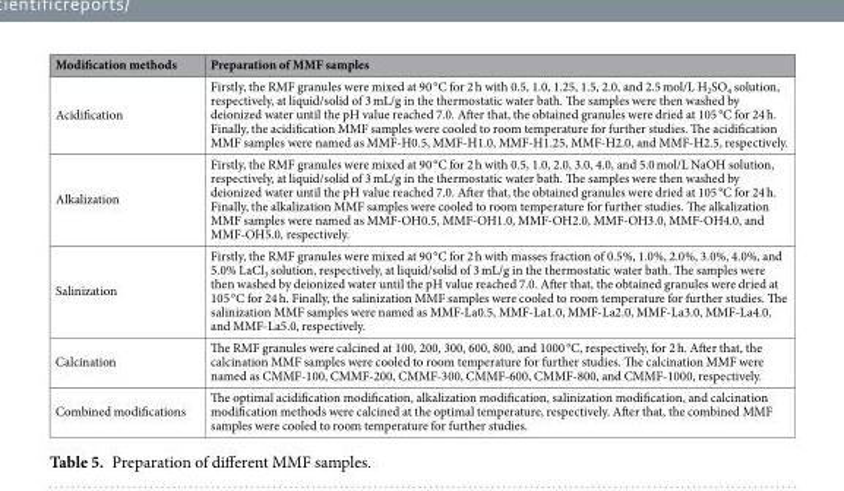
<table><thead><tr><td>Modification methods</td><td>Preparation of MMF samples</td></tr></thead><tbody><tr><td>Acidification</td><td>Firstly, the RMF granules were mixed at 90 °C for 2 h with 0.5, 1.0, 1.25, 1.5, 2.0, and 2.5 mol/L H<sub>2</sub>SO<sub>4</sub> solution, respectively, at liquid/solid of 3 mL/g in the thermostatic water bath. The samples were then washed by deionized water until the pH value reached 7.0. After that, the obtained granules were dried at 105 °C for 24 h. Finally, the acidification MMF samples were cooled to room temperature for further studies. The acidification MMF samples were named as MMF-H0.5, MMF-H1.0, MMF-H1.25, MMF-H2.0, and MMF-H2.5, respectively.</td></tr><tr><td>Alkalization</td><td>Firstly, the RMF granules were mixed at 90 °C for 2 h with 0.5, 1.0, 2.0, 3.0, 4.0, and 5.0 mol/L NaOH solution, respectively, at liquid/solid of 3 mL/g in the thermostatic water bath. The samples were then washed by deionized water until the pH value reached 7.0. After that, the obtained granules were dried at 105 °C for 24 h. Finally, the alkalization MMF samples were cooled to room temperature for further studies. The alkalization MMF samples were named as MMF-OH0.5, MMF-OH1.0, MMF-OH2.0, MMF-OH3.0, MMF-OH4.0, and MMF-OH5.0, respectively.</td></tr><tr><td>Salinization</td><td>Firstly, the RMF granules were mixed at 90 °C for 2 h with masses fraction of 0.5%, 1.0%, 2.0%, 3.0%, 4.0%, and 5.0% LaCl<sub>3</sub> solution, respectively, at liquid/solid of 3 mL/g in the thermostatic water bath. The samples were then washed by deionized water until the pH value reached 7.0. After that, the obtained granules were dried at 105 °C for 24 h. Finally, the salinization MMF samples were cooled to room temperature for further studies. The salinization MMF samples were named as MMF-La0.5, MMF-La1.0, MMF-La2.0, MMF-La3.0, MMF-La4.0, and MMF-La5.0, respectively.</td></tr><tr><td>Calcination</td><td>The RMF granules were calcined at 100, 200, 300, 600, 800, and 1000 °C, respectively, for 2 h. After that, the calcination MMF samples were cooled to room temperature for further studies. The calcination MMF were named as CMMF-100, CMMF-200, CMMF-300, CMMF-600, CMMF-800, and CMMF-1000, respectively.</td></tr><tr><td>Combined modifications</td><td>The optimal acidification modification, alkalization modification, salinization modification, and calcination modification methods were calcined at the optimal temperature, respectively. After that, the combined MMF samples were cooled to room temperature for further studies.</td></tr></tbody></table>